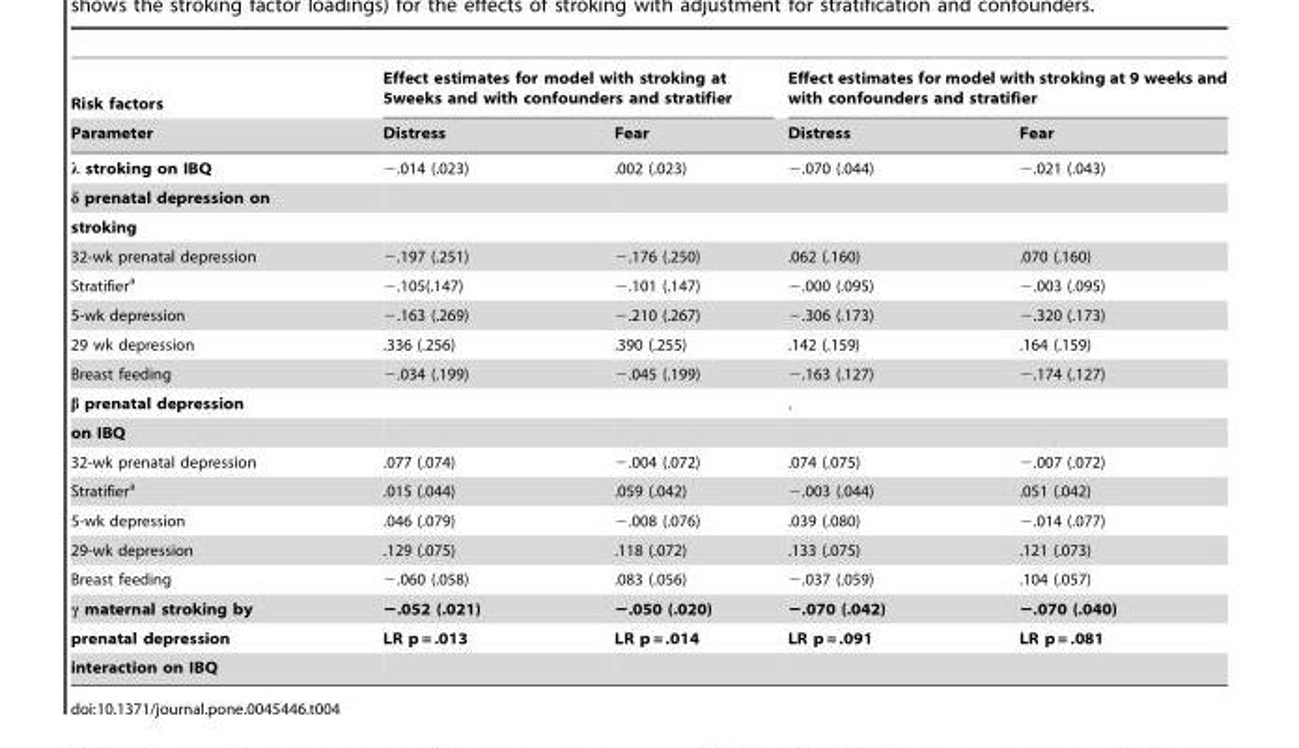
<table><thead><tr><td rowspan="2">Risk factors Parameter</td><td colspan="2">Effect estimates for model with stroking at 5weeks and with confounders and stratifier</td><td colspan="2">Effect estimates for model with stroking at 9 weeks and with confounders and stratifier</td></tr><tr><td>Distress</td><td>Fear</td><td>Distress</td><td>Fear</td></tr></thead><tbody><tr><td>λ stroking on IBQ</td><td>−.014 (.023)</td><td>.002 (.023)</td><td>−.070 (.044)</td><td>−.021 (.043)</td></tr><tr><td colspan="5">δ prenatal depression on</td></tr><tr><td colspan="5">stroking</td></tr><tr><td>32-wk prenatal depression</td><td>−.197 (.251)</td><td>−.176 (.250)</td><td>.062 (.160)</td><td>.070 (.160)</td></tr><tr><td>Stratifier<sup>a</sup></td><td>−.105(.147)</td><td>−.101 (.147)</td><td>−.000 (.095)</td><td>−.003 (.095)</td></tr><tr><td>5-wk depression</td><td>−.163 (.269)</td><td>−.210 (.267)</td><td>−.306 (.173)</td><td>−.320 (.173)</td></tr><tr><td>29 wk depression</td><td>.336 (.256)</td><td>.390 (.255)</td><td>.142 (.159)</td><td>.164 (.159)</td></tr><tr><td>Breast feeding</td><td>−.034 (.199)</td><td>−.045 (.199)</td><td>−.163 (.127)</td><td>−.174 (.127)</td></tr><tr><td>β prenatal depression</td><td></td><td></td><td>.</td><td></td></tr><tr><td colspan="5">on IBQ</td></tr><tr><td>32-wk prenatal depression</td><td>.077 (.074)</td><td>−.004 (.072)</td><td>.074 (.075)</td><td>−.007 (.072)</td></tr><tr><td>Stratifier<sup>a</sup></td><td>.015 (.044)</td><td>.059 (.042)</td><td>−.003 (.044)</td><td>.051 (.042)</td></tr><tr><td>5-wk depression</td><td>.046 (.079)</td><td>−.008 (.076)</td><td>.039 (.080)</td><td>−.014 (.077)</td></tr><tr><td>29-wk depression</td><td>.129 (.075)</td><td>.118 (.072)</td><td>.133 (.075)</td><td>.121 (.073)</td></tr><tr><td>Breast feeding</td><td>−.060 (.058)</td><td>.083 (.056)</td><td>−.037 (.059)</td><td>.104 (.057)</td></tr><tr><td>γ maternal stroking by</td><td>−.052 (.021)</td><td>−.050 (.020)</td><td>−.070 (.042)</td><td>−.070 (.040)</td></tr><tr><td>prenatal depression</td><td>LR p = .013</td><td>LR p = .014</td><td>LR p = .091</td><td>LR p = .081</td></tr><tr><td>interaction on IBQ</td><td></td><td></td><td></td><td></td></tr></tbody></table>